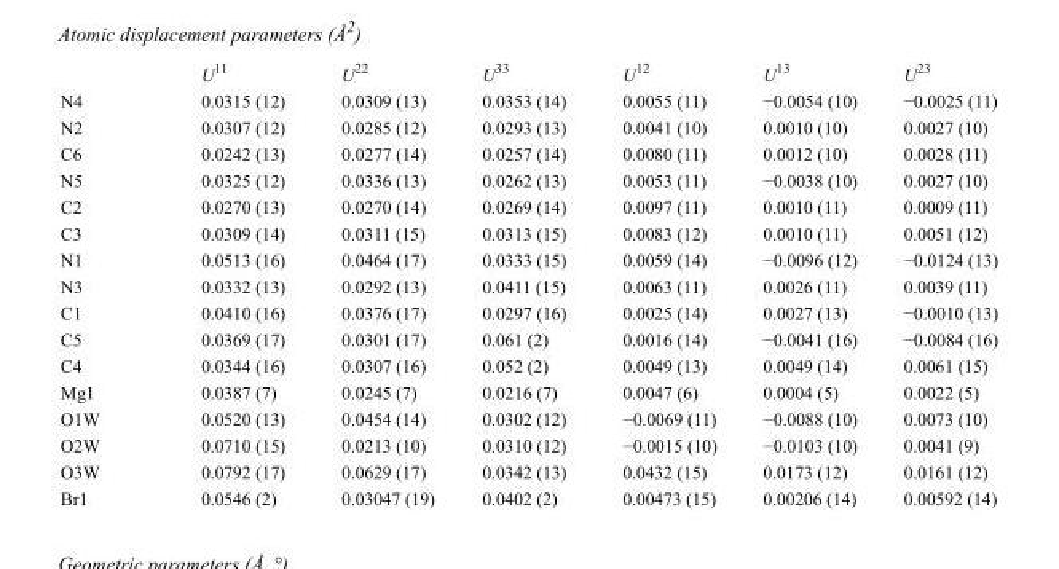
<table><thead><tr><td></td><td>U<sup>11</sup></td><td>U<sup>22</sup></td><td>U<sup>33</sup></td><td>U<sup>12</sup></td><td>U<sup>13</sup></td><td>U<sup>23</sup></td></tr></thead><tbody><tr><td>N4</td><td>0.0315 (12)</td><td>0.0309 (13)</td><td>0.0353 (14)</td><td>0.0055 (11)</td><td>−0.0054 (10)</td><td>−0.0025 (11)</td></tr><tr><td>N2</td><td>0.0307 (12)</td><td>0.0285 (12)</td><td>0.0293 (13)</td><td>0.0041 (10)</td><td>0.0010 (10)</td><td>0.0027 (10)</td></tr><tr><td>C6</td><td>0.0242 (13)</td><td>0.0277 (14)</td><td>0.0257 (14)</td><td>0.0080 (11)</td><td>0.0012 (10)</td><td>0.0028 (11)</td></tr><tr><td>N5</td><td>0.0325 (12)</td><td>0.0336 (13)</td><td>0.0262 (13)</td><td>0.0053 (11)</td><td>−0.0038 (10)</td><td>0.0027 (10)</td></tr><tr><td>C2</td><td>0.0270 (13)</td><td>0.0270 (14)</td><td>0.0269 (14)</td><td>0.0097 (11)</td><td>0.0010 (11)</td><td>0.0009 (11)</td></tr><tr><td>C3</td><td>0.0309 (14)</td><td>0.0311 (15)</td><td>0.0313 (15)</td><td>0.0083 (12)</td><td>0.0010 (11)</td><td>0.0051 (12)</td></tr><tr><td>N1</td><td>0.0513 (16)</td><td>0.0464 (17)</td><td>0.0333 (15)</td><td>0.0059 (14)</td><td>−0.0096 (12)</td><td>−0.0124 (13)</td></tr><tr><td>N3</td><td>0.0332 (13)</td><td>0.0292 (13)</td><td>0.0411 (15)</td><td>0.0063 (11)</td><td>0.0026 (11)</td><td>0.0039 (11)</td></tr><tr><td>C1</td><td>0.0410 (16)</td><td>0.0376 (17)</td><td>0.0297 (16)</td><td>0.0025 (14)</td><td>0.0027 (13)</td><td>−0.0010 (13)</td></tr><tr><td>C5</td><td>0.0369 (17)</td><td>0.0301 (17)</td><td>0.061 (2)</td><td>0.0016 (14)</td><td>−0.0041 (16)</td><td>−0.0084 (16)</td></tr><tr><td>C4</td><td>0.0344 (16)</td><td>0.0307 (16)</td><td>0.052 (2)</td><td>0.0049 (13)</td><td>0.0049 (14)</td><td>0.0061 (15)</td></tr><tr><td>Mg1</td><td>0.0387 (7)</td><td>0.0245 (7)</td><td>0.0216 (7)</td><td>0.0047 (6)</td><td>0.0004 (5)</td><td>0.0022 (5)</td></tr><tr><td>O1W</td><td>0.0520 (13)</td><td>0.0454 (14)</td><td>0.0302 (12)</td><td>−0.0069 (11)</td><td>−0.0088 (10)</td><td>0.0073 (10)</td></tr><tr><td>O2W</td><td>0.0710 (15)</td><td>0.0213 (10)</td><td>0.0310 (12)</td><td>−0.0015 (10)</td><td>−0.0103 (10)</td><td>0.0041 (9)</td></tr><tr><td>O3W</td><td>0.0792 (17)</td><td>0.0629 (17)</td><td>0.0342 (13)</td><td>0.0432 (15)</td><td>0.0173 (12)</td><td>0.0161 (12)</td></tr><tr><td>Br1</td><td>0.0546 (2)</td><td>0.03047 (19)</td><td>0.0402 (2)</td><td>0.00473 (15)</td><td>0.00206 (14)</td><td>0.00592 (14)</td></tr></tbody></table>